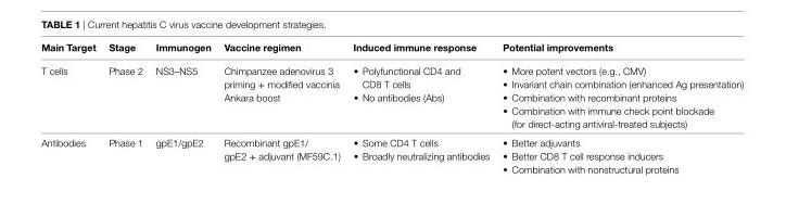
<table><thead><tr><td>Main Target</td><td>Stage</td><td>immunogen</td><td>vaccine regimen</td><td>induced immune response</td><td>Potential improvements</td></tr></thead><tbody><tr><td>T cells</td><td>Phase 2</td><td>NS3–NS5</td><td>Chimpanzee adenovirus 3 priming + modified vaccinia Ankara boost</td><td>• Polyfunctional CD4 and CD8 T cells • No antibodies (Abs)</td><td>• More potent vectors (e.g., CMV) • Invariant chain combination (enhanced Ag presentation) • Combination with recombinant proteins • Combination with immune check point blockade (for direct-acting antiviral-treated subjects)</td></tr><tr><td>Antibodies</td><td>Phase 1</td><td>gpE1/gpE2</td><td>Recombinant gpE1/ gpE2 + adjuvant (MF59C.1)</td><td>• Some CD4 T cells • Broadly neutralizing antibodies</td><td>• Better adjuvants • Better CD8 T cell response inducers • Combination with nonstructural proteins</td></tr></tbody></table>